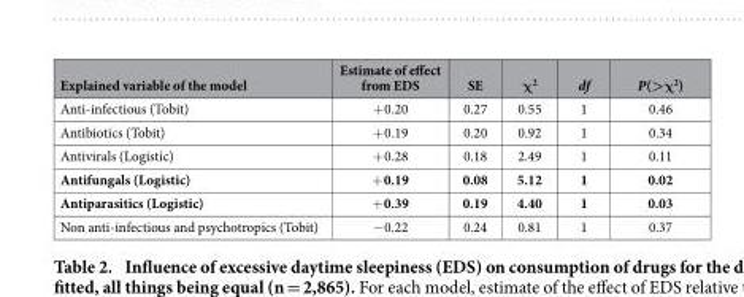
<table><thead><tr><td>Explained variable of the model</td><td>Estimate of effect from EDS</td><td>SE</td><td>χ<sup>2</sup></td><td>df</td><td>P(&gt;χ<sup>2</sup>)</td></tr></thead><tbody><tr><td>Anti-infectious (Tobit)</td><td>+ 0.20</td><td>0.27</td><td>0.55</td><td>1</td><td>0.46</td></tr><tr><td>Antibiotics (Tobit)</td><td>+ 0.19</td><td>0.20</td><td>0.92</td><td>1</td><td>0.34</td></tr><tr><td>Antivirals (Logistic)</td><td>+ 0.28</td><td>0.18</td><td>2.49</td><td>1</td><td>0.11</td></tr><tr><td>Antifungals (Logistic)</td><td>+ 0.19</td><td>0.08</td><td>5.12</td><td>1</td><td>0.02</td></tr><tr><td>Antiparasitics (Logistic)</td><td>+ 0.39</td><td>0.19</td><td>4.40</td><td>1</td><td>0.03</td></tr><tr><td>Non anti-infectious and psychotropics (Tobit)</td><td>− 0.22</td><td>0.24</td><td>0.81</td><td>1</td><td>0.37</td></tr></tbody></table>